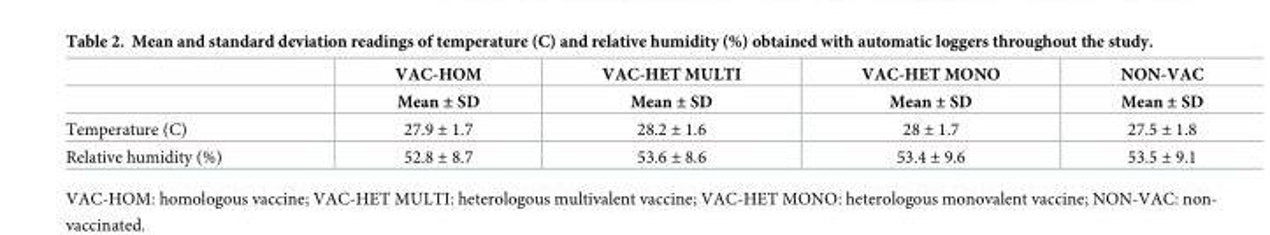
<table><thead><tr><td rowspan="2"></td><td rowspan="2">VAC-HOM Mean ± SD</td><td rowspan="2">VAC-HET MULTI Mean ± SD</td><td rowspan="2">VAC-HET MONO Mean ± SD</td><td rowspan="2">NON-VAC Mean ± SD</td></tr><tr></tr></thead><tbody><tr><td>Temperature (C)</td><td>27.9 ± 1.7</td><td>28.2 ± 1.6</td><td>28 ± 1.7</td><td>27.5 ± 1.8</td></tr><tr><td>Relative humidity (%)</td><td>52.8 ± 8.7</td><td>53.6 ± 8.6</td><td>53.4 ± 9.6</td><td>53.5 ± 9.1</td></tr></tbody></table>